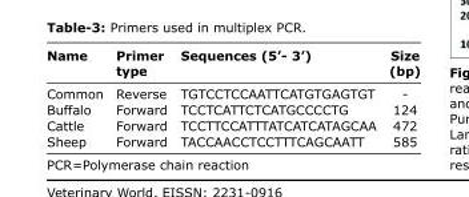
<table><thead><tr><td>Name</td><td>Primer type</td><td>Sequences (5’- 3’)</td><td>Size (bp)</td></tr></thead><tbody><tr><td>Common</td><td>Reverse</td><td>TGTCCTCCAATTCATGTGAGTGT</td><td>-</td></tr><tr><td>Buffalo</td><td>Forward</td><td>TCCTCATTCTCATGCCCCTG</td><td>124</td></tr><tr><td>Cattle</td><td>Forward</td><td>TCCTTCCATTTATCATCATAGCAA</td><td>472</td></tr><tr><td>Sheep</td><td>Forward</td><td>TACCAACCTCCTTTCAGCAATT</td><td>585</td></tr></tbody></table>